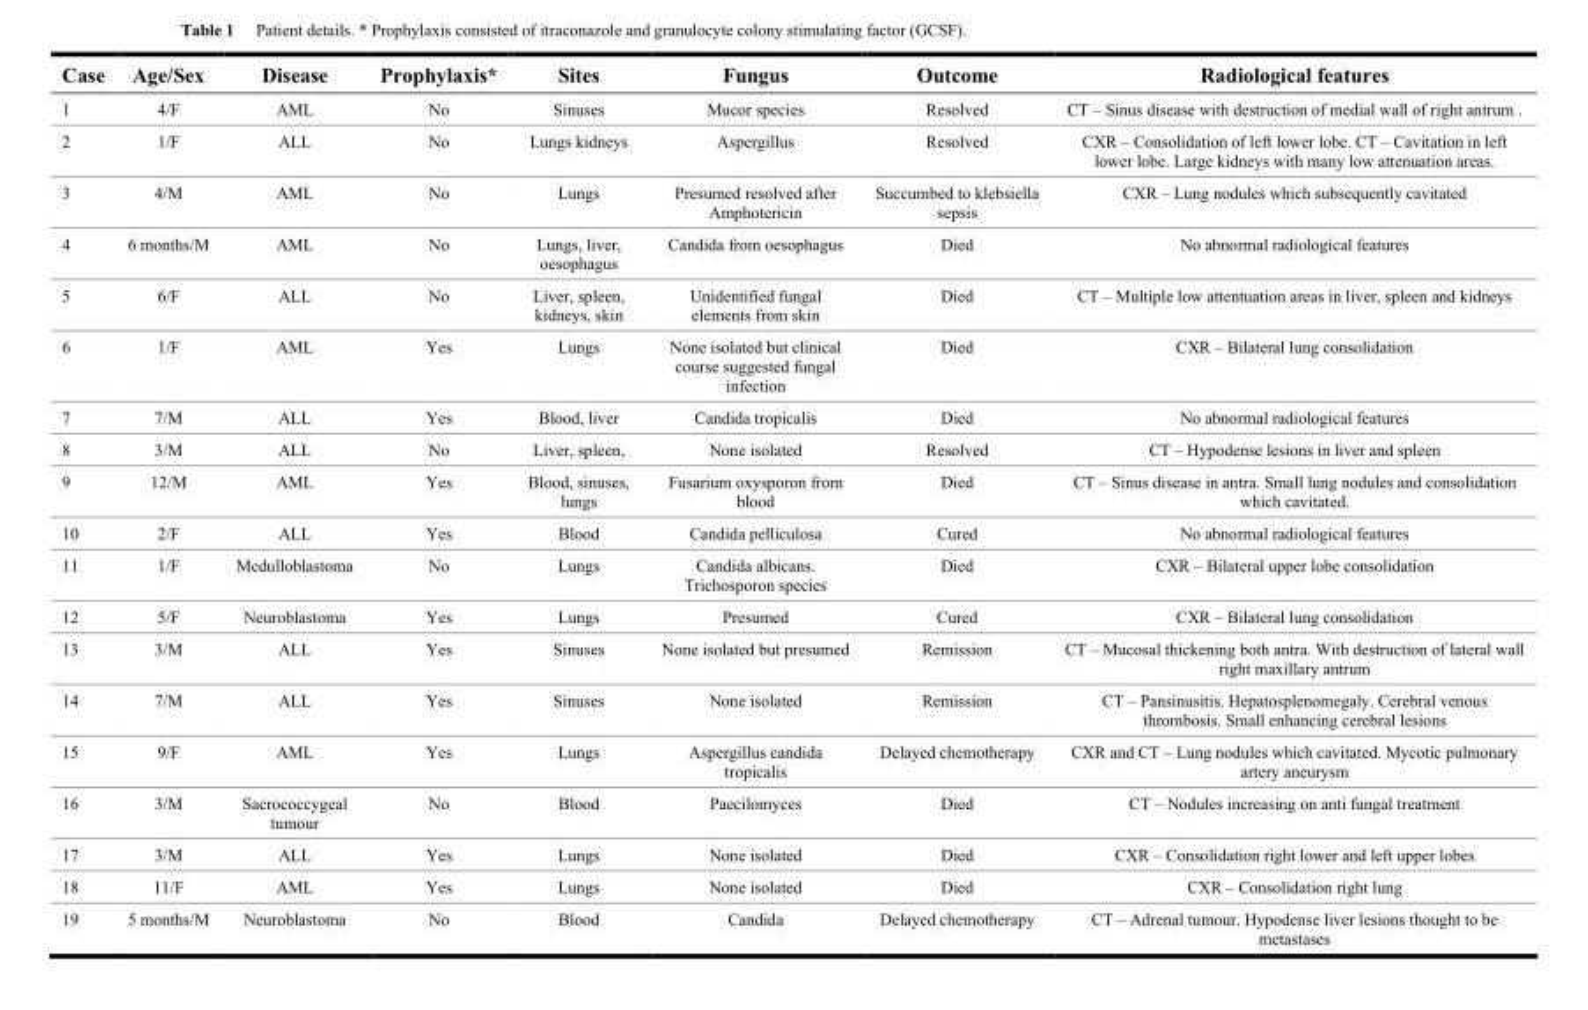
<table><thead><tr><td>Case</td><td>Age/Sex</td><td>Disease</td><td>Prophylaxis*</td><td>Sites</td><td>Fungus</td><td>Outcome</td><td>Radiological features</td></tr></thead><tbody><tr><td>1</td><td>4/F</td><td>AML</td><td>No</td><td>Sinuses</td><td>Mucor species</td><td>Resolved</td><td>CT – Sinus disease with destruction of medial wall of right antrum .</td></tr><tr><td>2</td><td>1/F</td><td>ALL</td><td>No</td><td>Lungs kidneys</td><td>Aspergillus</td><td>Resolved</td><td>CXR – Consolidation of left lower lobe. CT – Cavitation in left lower lobe. Large kidneys with many low attenuation areas.</td></tr><tr><td>3</td><td>4/M</td><td>AML</td><td>No</td><td>Lungs</td><td>Presumed resolved after Amphotericin</td><td>Succumbed to klebsiella sepsis</td><td>CXR – Lung nodules which subsequently cavitated</td></tr><tr><td>4</td><td>6 months/M</td><td>AML</td><td>No</td><td>Lungs, liver, oesophagus</td><td>Candida from oesophagus</td><td>Died</td><td>No abnormal radiological features</td></tr><tr><td>5</td><td>6/F</td><td>ALL</td><td>No</td><td>Liver, spleen, kidneys, skin</td><td>Unidentified fungal elements from skin</td><td>Died</td><td>CT – Multiple low attentuation areas in liver, spleen and kidneys</td></tr><tr><td>6</td><td>1/F</td><td>AML</td><td>Yes</td><td>Lungs</td><td>None isolated but clinical course suggested fungal infection</td><td>Died</td><td>CXR – Bilateral lung consolidation</td></tr><tr><td>7</td><td>7/M</td><td>ALL</td><td>Yes</td><td>Blood, liver</td><td>Candida tropicalis</td><td>Died</td><td>No abnormal radiological features</td></tr><tr><td>8</td><td>3/M</td><td>ALL</td><td>No</td><td>Liver, spleen,</td><td>None isolated</td><td>Resolved</td><td>CT – Hypodense lesions in liver and spleen</td></tr><tr><td>9</td><td>12/M</td><td>AML</td><td>Yes</td><td>Blood, sinuses, lungs</td><td>Fusarium oxysporon from blood</td><td>Died</td><td>CT – Sinus disease in antra. Small lung nodules and consolidation which cavitated.</td></tr><tr><td>10</td><td>2/F</td><td>ALL</td><td>Yes</td><td>Blood</td><td>Candida pelliculosa</td><td>Cured</td><td>No abnormal radiological features</td></tr><tr><td>11</td><td>1/F</td><td>Medulloblastoma</td><td>No</td><td>Lungs</td><td>Candida albicans. Trichosporon species</td><td>Died</td><td>CXR – Bilateral upper lobe consolidation</td></tr><tr><td>12</td><td>5/F</td><td>Neuroblastoma</td><td>Yes</td><td>Lungs</td><td>Presumed</td><td>Cured</td><td>CXR – Bilateral lung consolidation</td></tr><tr><td>13</td><td>3/M</td><td>ALL</td><td>Yes</td><td>Sinuses</td><td>None isolated but presumed</td><td>Remission</td><td>CT – Mucosal thickening both antra. With destruction of lateral wall right maxillary antrum</td></tr><tr><td>14</td><td>7/M</td><td>ALL</td><td>Yes</td><td>Sinuses</td><td>None isolated</td><td>Remission</td><td>CT – Pansinusitis. Hepatosplenomegaly. Cerebral venous thrombosis. Small enhancing cerebral lesions</td></tr><tr><td>15</td><td>9/F</td><td>AML</td><td>Yes</td><td>Lungs</td><td>Aspergillus candida tropicalis</td><td>Delayed chemotherapy</td><td>CXR and CT – Lung nodules which cavitated. Mycotic pulmonary artery aneurysm</td></tr><tr><td>16</td><td>3/M</td><td>Sacrococcygeal tumour</td><td>No</td><td>Blood</td><td>Paecilomyces</td><td>Died</td><td>CT – Nodules increasing on anti fungal treatment</td></tr><tr><td>17</td><td>3/M</td><td>ALL</td><td>Yes</td><td>Lungs</td><td>None isolated</td><td>Died</td><td>CXR – Consolidation right lower and left upper lobes</td></tr><tr><td>18</td><td>11/F</td><td>AML</td><td>Yes</td><td>Lungs</td><td>None isolated</td><td>Died</td><td>CXR – Consolidation right lung</td></tr><tr><td>19</td><td>5 months/M</td><td>Neuroblastoma</td><td>No</td><td>Blood</td><td>Candida</td><td>Delayed chemotherapy</td><td>CT – Adrenal tumour. Hypodense liver lesions thought to be metastases</td></tr></tbody></table>